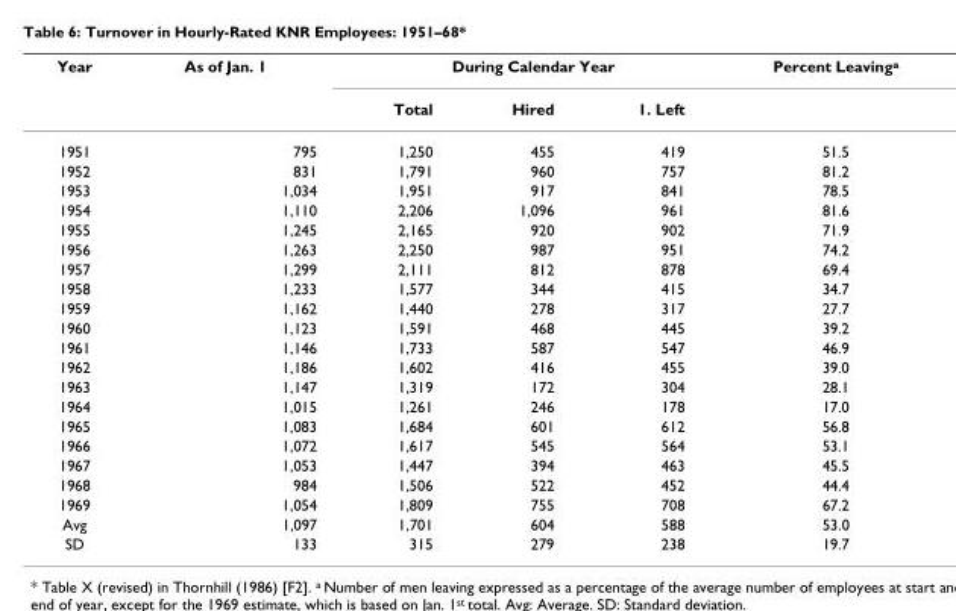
<table><thead><tr><td rowspan="2">Year</td><td rowspan="2">As of Jan. 1</td><td colspan="3">During Calendar Year</td><td rowspan="2">Percent Leaving<sup>a</sup></td></tr><tr><td>Total</td><td>Hired</td><td>1. Left</td></tr></thead><tbody><tr><td>1951</td><td>795</td><td>1,250</td><td>455</td><td>419</td><td>51.5</td></tr><tr><td>1952</td><td>831</td><td>1,791</td><td>960</td><td>757</td><td>81.2</td></tr><tr><td>1953</td><td>1,034</td><td>1,951</td><td>917</td><td>841</td><td>78.5</td></tr><tr><td>1954</td><td>1,110</td><td>2,206</td><td>1,096</td><td>961</td><td>81.6</td></tr><tr><td>1955</td><td>1,245</td><td>2,165</td><td>920</td><td>902</td><td>71.9</td></tr><tr><td>1956</td><td>1,263</td><td>2,250</td><td>987</td><td>951</td><td>74.2</td></tr><tr><td>1957</td><td>1,299</td><td>2,111</td><td>812</td><td>878</td><td>69.4</td></tr><tr><td>1958</td><td>1,233</td><td>1,577</td><td>344</td><td>415</td><td>34.7</td></tr><tr><td>1959</td><td>1,162</td><td>1,440</td><td>278</td><td>317</td><td>27.7</td></tr><tr><td>1960</td><td>1,123</td><td>1,591</td><td>468</td><td>445</td><td>39.2</td></tr><tr><td>1961</td><td>1,146</td><td>1,733</td><td>587</td><td>547</td><td>46.9</td></tr><tr><td>1962</td><td>1,186</td><td>1,602</td><td>416</td><td>455</td><td>39.0</td></tr><tr><td>1963</td><td>1,147</td><td>1,319</td><td>172</td><td>304</td><td>28.1</td></tr><tr><td>1964</td><td>1,015</td><td>1,261</td><td>246</td><td>178</td><td>17.0</td></tr><tr><td>1965</td><td>1,083</td><td>1,684</td><td>601</td><td>612</td><td>56.8</td></tr><tr><td>1966</td><td>1,072</td><td>1,617</td><td>545</td><td>564</td><td>53.1</td></tr><tr><td>1967</td><td>1,053</td><td>1,447</td><td>394</td><td>463</td><td>45.5</td></tr><tr><td>1968</td><td>984</td><td>1,506</td><td>522</td><td>452</td><td>44.4</td></tr><tr><td>1969</td><td>1,054</td><td>1,809</td><td>755</td><td>708</td><td>67.2</td></tr><tr><td>Avg</td><td>1,097</td><td>1,701</td><td>604</td><td>588</td><td>53.0</td></tr><tr><td>SD</td><td>133</td><td>315</td><td>279</td><td>238</td><td>19.7</td></tr></tbody></table>